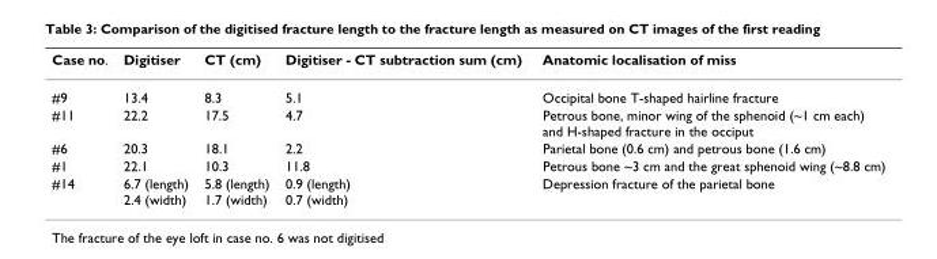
<table><thead><tr><td>Case no.</td><td>Digitiser</td><td>CT (cm)</td><td>Digitiser - CT subtraction sum (cm)</td><td>Anatomic localisation of miss</td></tr></thead><tbody><tr><td>#9</td><td>13.4</td><td>8.3</td><td>5.1</td><td>Occipital bone T-shaped hairline fracture</td></tr><tr><td>#11</td><td>22.2</td><td>17.5</td><td>4.7</td><td>Petrous bone, minor wing of the sphenoid (~1 cm each) and H-shaped fracture in the occiput</td></tr><tr><td>#6</td><td>20.3</td><td>18.1</td><td>2.2</td><td>Parietal bone (0.6 cm) and petrous bone (1.6 cm)</td></tr><tr><td>#1</td><td>22.1</td><td>10.3</td><td>11.8</td><td>Petrous bone ~3 cm and the great sphenoid wing (~8.8 cm)</td></tr><tr><td>#14</td><td>6.7 (length) 2.4 (width)</td><td>5.8 (length) 1.7 (width)</td><td>0.9 (length) 0.7 (width)</td><td>Depression fracture of the parietal bone</td></tr></tbody></table>